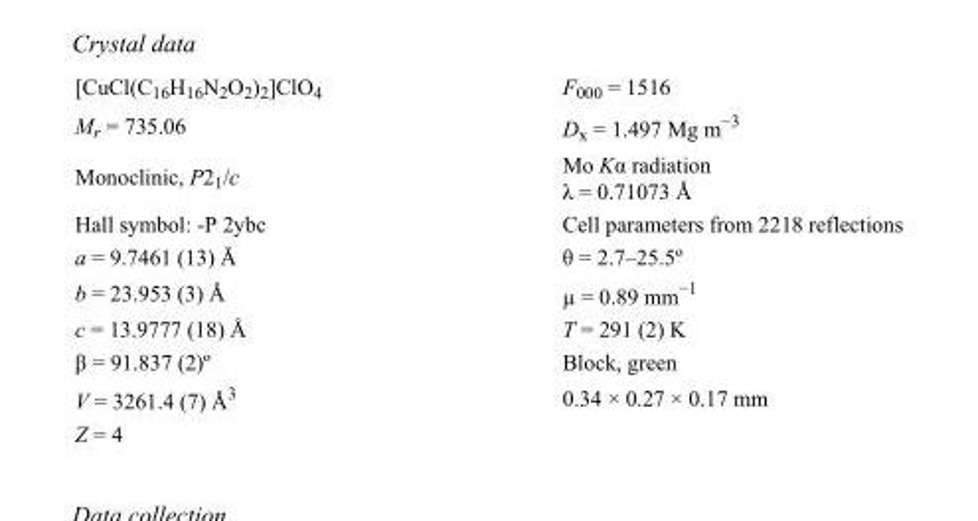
<table><tbody><tr><td>[CuCl(C<sub>16</sub>H<sub>16</sub>N<sub>2</sub>O<sub>2</sub>)<sub>2</sub>]ClO<sub>4</sub></td><td>F000 = 1516</td></tr><tr><td>M<sub>r</sub> = 735.06</td><td>D<sub>x</sub> = 1.497 Mg m<sup>−3</sup></td></tr><tr><td>Monoclinic, P2<sub>1</sub>/c</td><td>Mo Kα radiation λ = 0.71073 Å</td></tr><tr><td>Hall symbol: -P 2ybc</td><td>Cell parameters from 2218 reflections</td></tr><tr><td>a = 9.7461 (13) Å</td><td>θ = 2.7–25.5º</td></tr><tr><td>b = 23.953 (3) Å</td><td>µ = 0.89 mm<sup>−1</sup></td></tr><tr><td>c = 13.9777 (18) Å</td><td>T = 291 (2) K</td></tr><tr><td>β = 91.837 (2)º</td><td>Block, green</td></tr><tr><td>V = 3261.4 (7) Å<sup>3</sup></td><td>0.34 × 0.27 × 0.17 mm</td></tr><tr><td>Z = 4</td><td></td></tr></tbody></table>